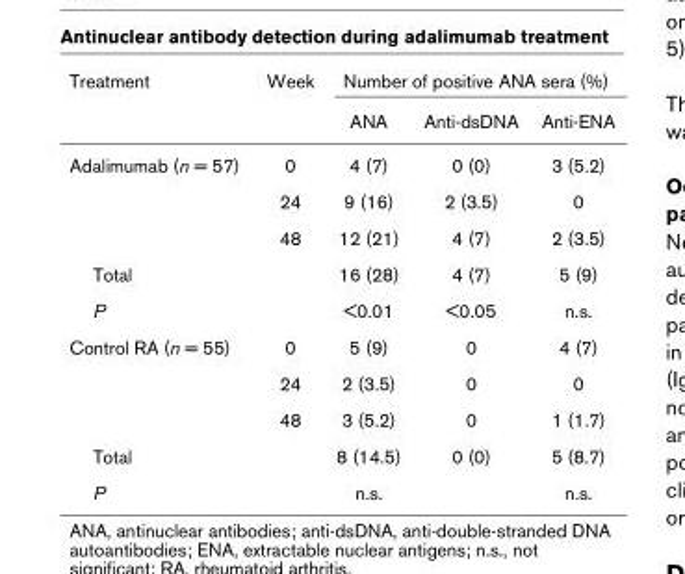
<table><thead><tr><td rowspan="2">Treatment</td><td rowspan="2">Week</td><td colspan="3">Number of positive ANA sera (%)</td></tr><tr><td>ANA</td><td>Anti-dsDNA</td><td>Anti-ENA</td></tr></thead><tbody><tr><td rowspan="3">Adalimumab (n = 57)</td><td>0</td><td>4 (7)</td><td>0 (0)</td><td>3 (5.2)</td></tr><tr><td>24</td><td>9 (16)</td><td>2 (3.5)</td><td>0</td></tr><tr><td>48</td><td>12 (21)</td><td>4 (7)</td><td>2 (3.5)</td></tr><tr><td>Total</td><td></td><td>16 (28)</td><td>4 (7)</td><td>5 (9)</td></tr><tr><td>P</td><td></td><td>&lt;0.01</td><td>&lt;0.05</td><td>n.s.</td></tr><tr><td rowspan="3">Control RA (n = 55)</td><td>0</td><td>5 (9)</td><td>0</td><td>4 (7)</td></tr><tr><td>24</td><td>2 (3.5)</td><td>0</td><td>0</td></tr><tr><td>48</td><td>3 (5.2)</td><td>0</td><td>1 (1.7)</td></tr><tr><td>Total</td><td></td><td>8 (14.5)</td><td>0 (0)</td><td>5 (8.7)</td></tr><tr><td>P</td><td></td><td>n.s.</td><td></td><td>n.s.</td></tr></tbody></table>